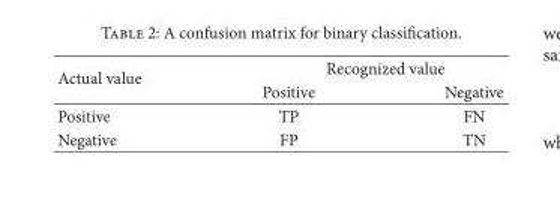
<table><thead><tr><td rowspan="2">Actual value</td><td colspan="2">Recognized value</td></tr><tr><td>Positive</td><td>Negative</td></tr></thead><tbody><tr><td>Positive</td><td>TP</td><td>FN</td></tr><tr><td>Negative</td><td>FP</td><td>TN</td></tr></tbody></table>